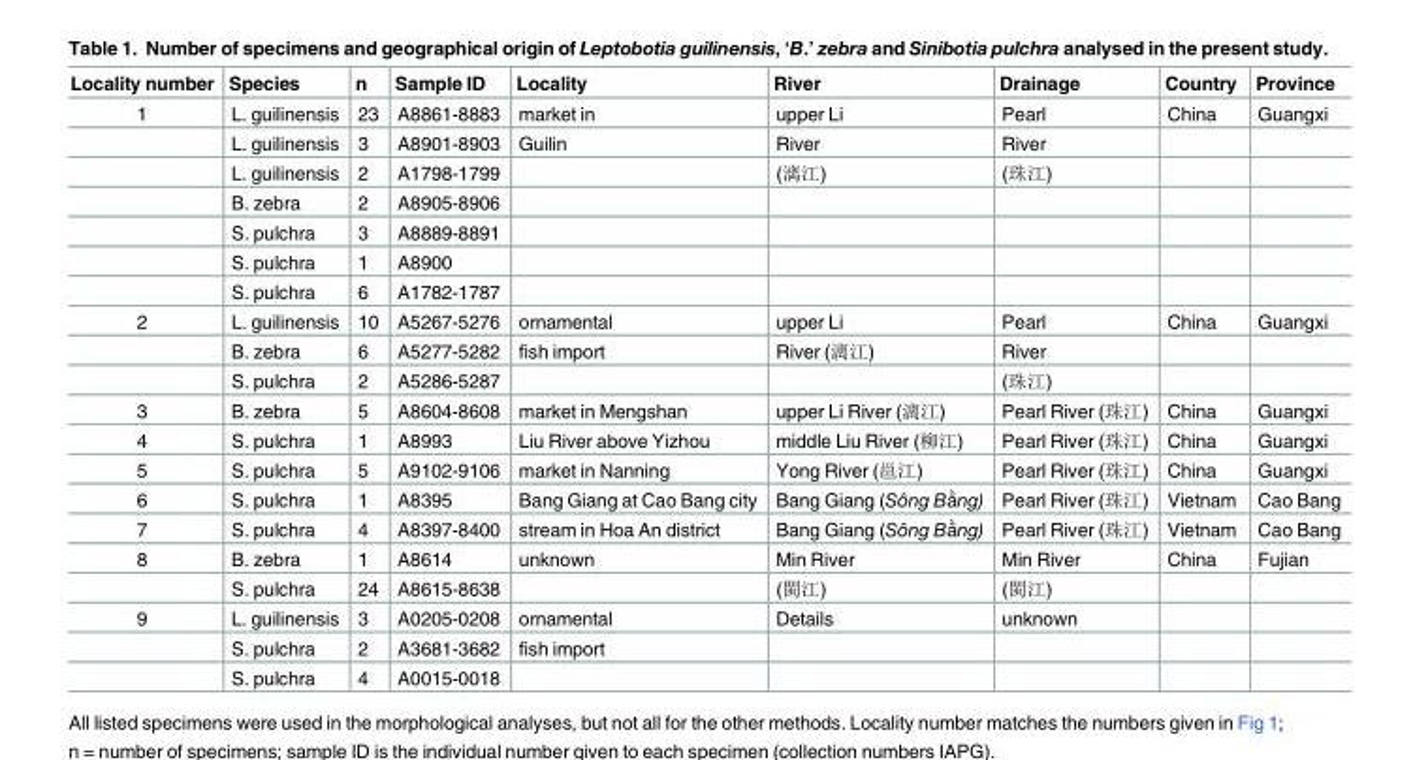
<table><thead><tr><td>Locality number</td><td>Species</td><td>n</td><td>Sample ID</td><td>Locality</td><td>River</td><td>Drainage</td><td>Country</td><td>Province</td></tr></thead><tbody><tr><td rowspan="7">1</td><td>L. guilinensis</td><td>23</td><td>A8861-8883</td><td>market in</td><td>upper Li</td><td>Pearl</td><td>China</td><td>Guangxi</td></tr><tr><td>L. guilinensis</td><td>3</td><td>A8901-8903</td><td>Guilin</td><td>River</td><td>River</td><td></td><td></td></tr><tr><td>L. guilinensis</td><td>2</td><td>A1798-1799</td><td></td><td>(漓江)</td><td>(珠江)</td><td></td><td></td></tr><tr><td>B. zebra</td><td>2</td><td>A8905-8906</td><td></td><td></td><td></td><td></td><td></td></tr><tr><td>S. pulchra</td><td>3</td><td>A8889-8891</td><td></td><td></td><td></td><td></td><td></td></tr><tr><td>S. pulchra</td><td>1</td><td>A8900</td><td></td><td></td><td></td><td></td><td></td></tr><tr><td>S. pulchra</td><td>6</td><td>A1782-1787</td><td></td><td></td><td></td><td></td><td></td></tr><tr><td rowspan="3">2</td><td>L. guilinensis</td><td>10</td><td>A5267-5276</td><td>ornamental</td><td>upper Li</td><td>Pearl</td><td>China</td><td>Guangxi</td></tr><tr><td>B. zebra</td><td>6</td><td>A5277-5282</td><td>fish import</td><td>River (漓江)</td><td>River</td><td></td><td></td></tr><tr><td>S. pulchra</td><td>2</td><td>A5286-5287</td><td></td><td></td><td>(珠江)</td><td></td><td></td></tr><tr><td>3</td><td>B. zebra</td><td>5</td><td>A8604-8608</td><td>market in Mengshan</td><td>upper Li River (漓江)</td><td>Pearl River (珠江)</td><td>China</td><td>Guangxi</td></tr><tr><td>4</td><td>S. pulchra</td><td>1</td><td>A8993</td><td>Liu River above Yizhou</td><td>middle Liu River (柳江)</td><td>Pearl River (珠江)</td><td>China</td><td>Guangxi</td></tr><tr><td>5</td><td>S. pulchra</td><td>5</td><td>A9102-9106</td><td>market in Nanning</td><td>Yong River (邕江)</td><td>Pearl River (珠江)</td><td>China</td><td>Guangxi</td></tr><tr><td>6</td><td>S. pulchra</td><td>1</td><td>A8395</td><td>Bang Giang at Cao Bang city</td><td>Bang Giang (Sông Bằng)</td><td>Pearl River (珠江)</td><td>Vietnam</td><td>Cao Bang</td></tr><tr><td>7</td><td>S. pulchra</td><td>4</td><td>A8397-8400</td><td>stream in Hoa An district</td><td>Bang Giang (Sông Bằng)</td><td>Pearl River (珠江)</td><td>Vietnam</td><td>Cao Bang</td></tr><tr><td rowspan="2">8</td><td>B. zebra</td><td>1</td><td>A8614</td><td>unknown</td><td>Min River</td><td>Min River</td><td>China</td><td>Fujian</td></tr><tr><td>S. pulchra</td><td>24</td><td>A8615-8638</td><td></td><td>(閩江)</td><td>(閩江)</td><td></td><td></td></tr><tr><td rowspan="3">9</td><td>L. guilinensis</td><td>3</td><td>A0205-0208</td><td>ornamental</td><td>Details</td><td>unknown</td><td></td><td></td></tr><tr><td>S. pulchra</td><td>2</td><td>A3681-3682</td><td>fish import</td><td></td><td></td><td></td><td></td></tr><tr><td>S. pulchra</td><td>4</td><td>A0015-0018</td><td></td><td></td><td></td><td></td><td></td></tr></tbody></table>